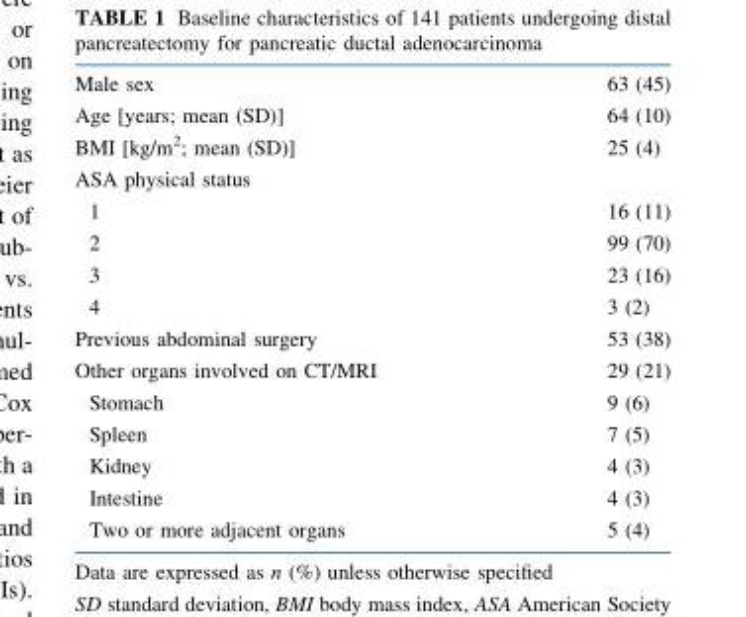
<table><tbody><tr><td>Male sex</td><td>63 (45)</td></tr><tr><td>Age [years; mean (SD)]</td><td>64 (10)</td></tr><tr><td>BMI [kg/m<sup>2</sup>; mean (SD)]</td><td>25 (4)</td></tr><tr><td colspan="2">ASA physical status</td></tr><tr><td>1</td><td>16 (11)</td></tr><tr><td>2</td><td>99 (70)</td></tr><tr><td>3</td><td>23 (16)</td></tr><tr><td>4</td><td>3 (2)</td></tr><tr><td>Previous abdominal surgery</td><td>53 (38)</td></tr><tr><td>Other organs involved on CT/MRI</td><td>29 (21)</td></tr><tr><td>Stomach</td><td>9 (6)</td></tr><tr><td>Spleen</td><td>7 (5)</td></tr><tr><td>Kidney</td><td>4 (3)</td></tr><tr><td>Intestine</td><td>4 (3)</td></tr><tr><td>Two or more adjacent organs</td><td>5 (4)</td></tr></tbody></table>